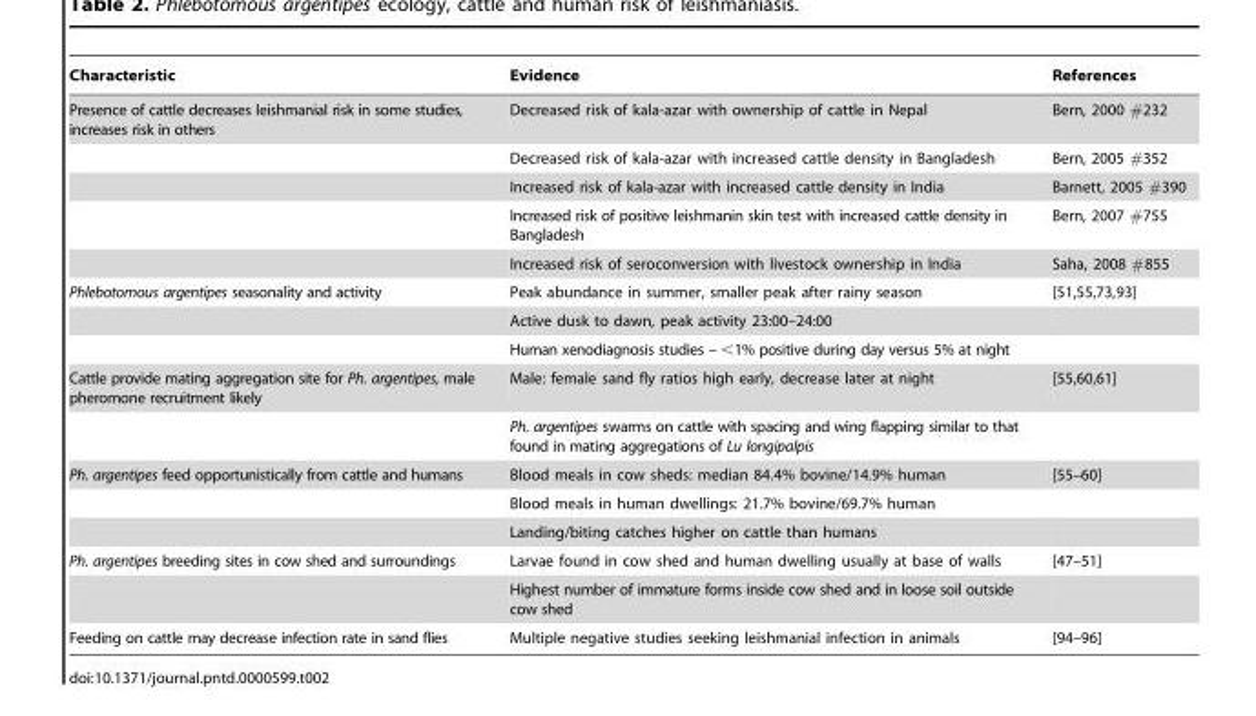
<table><thead><tr><td>Characteristic</td><td>Evidence</td><td>References</td></tr></thead><tbody><tr><td rowspan="5">Presence of cattle decreases leishmanial risk in some studies, increases risk in others</td><td>Decreased risk of kala-azar with ownership of cattle in Nepal</td><td>Bern, 2000 #232</td></tr><tr><td>Decreased risk of kala-azar with increased cattle density in Bangladesh</td><td>Bern, 2005 #352</td></tr><tr><td>Increased risk of kala-azar with increased cattle density in India</td><td>Barnett, 2005 #390</td></tr><tr><td>Increased risk of positive leishmanin skin test with increased cattle density in Bangladesh</td><td>Bern, 2007 #755</td></tr><tr><td>Increased risk of seroconversion with livestock ownership in India</td><td>Saha, 2008 #855</td></tr><tr><td rowspan="3">Phlebotomous argentipes seasonality and activity</td><td>Peak abundance in summer, smaller peak after rainy season</td><td>[51,55,73,93]</td></tr><tr><td>Active dusk to dawn, peak activity 23:00–24:00</td><td></td></tr><tr><td>Human xenodiagnosis studies – &lt;1% positive during day versus 5% at night</td><td></td></tr><tr><td rowspan="2">Cattle provide mating aggregation site for Ph. argentipes, male pheromone recruitment likely</td><td>Male: female sand fly ratios high early, decrease later at night</td><td>[55,60,61]</td></tr><tr><td>Ph. argentipes swarms on cattle with spacing and wing flapping similar to that found in mating aggregations of Lu longipalpis</td><td></td></tr><tr><td rowspan="3">Ph. argentipes feed opportunistically from cattle and humans</td><td>Blood meals in cow sheds: median 84.4% bovine/14.9% human</td><td>[55–60]</td></tr><tr><td>Blood meals in human dwellings: 21.7% bovine/69.7% human</td><td></td></tr><tr><td>Landing/biting catches higher on cattle than humans</td><td></td></tr><tr><td rowspan="2">Ph. argentipes breeding sites in cow shed and surroundings</td><td>Larvae found in cow shed and human dwelling usually at base of walls</td><td>[47–51]</td></tr><tr><td>Highest number of immature forms inside cow shed and in loose soil outside cow shed</td><td></td></tr><tr><td>Feeding on cattle may decrease infection rate in sand flies</td><td>Multiple negative studies seeking leishmanial infection in animals</td><td>[94–96]</td></tr></tbody></table>